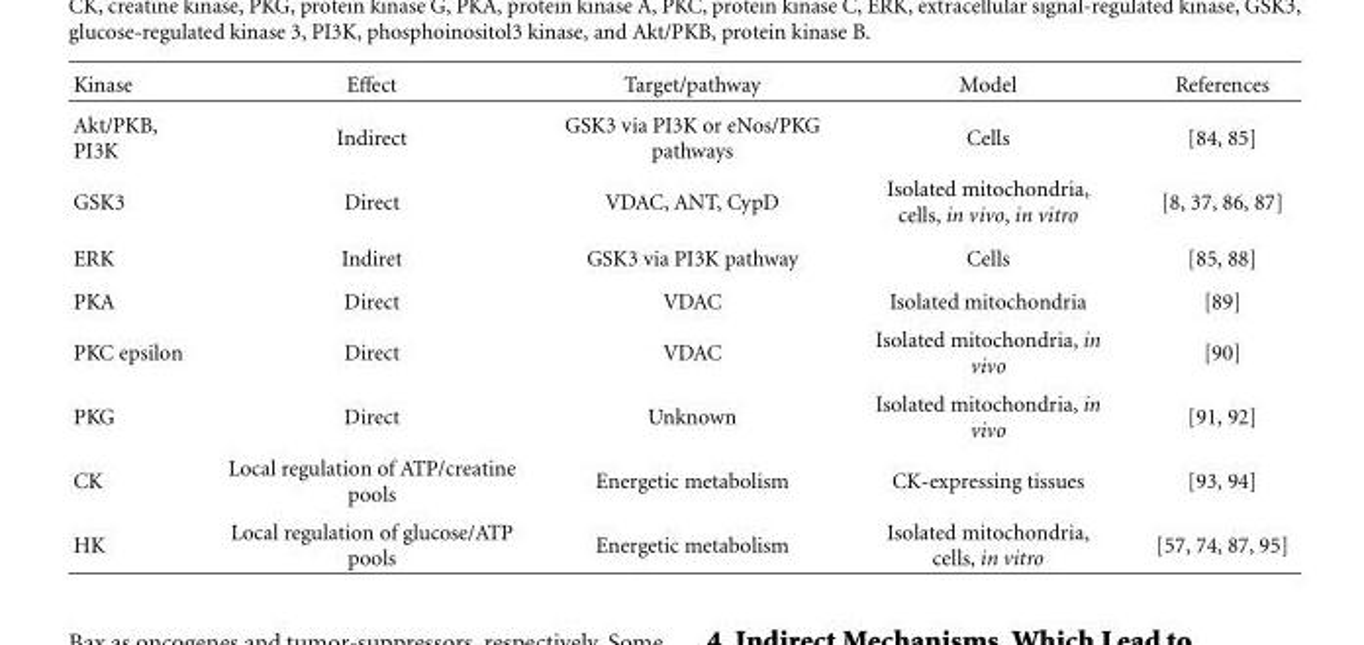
<table><thead><tr><td>Kinase</td><td>Effect</td><td>Target/pathway</td><td>Model</td><td>References</td></tr></thead><tbody><tr><td>Akt/PKB, PI3K</td><td>Indirect</td><td>GSK3 via PI3K or eNos/PKG pathways</td><td>Cells</td><td>[84, 85]</td></tr><tr><td>GSK3</td><td>Direct</td><td>VDAC, ANT, CypD</td><td>Isolated mitochondria, cells, in vivo, in vitro</td><td>[8, 37, 86, 87]</td></tr><tr><td>ERK</td><td>Indiret</td><td>GSK3 via PI3K pathway</td><td>Cells</td><td>[85, 88]</td></tr><tr><td>PKA</td><td>Direct</td><td>VDAC</td><td>Isolated mitochondria</td><td>[89]</td></tr><tr><td>PKC epsilon</td><td>Direct</td><td>VDAC</td><td>Isolated mitochondria, in vivo</td><td>[90]</td></tr><tr><td>PKG</td><td>Direct</td><td>Unknown</td><td>Isolated mitochondria, in vivo</td><td>[91, 92]</td></tr><tr><td>CK</td><td>Local regulation of ATP/creatine pools</td><td>Energetic metabolism</td><td>CK-expressing tissues</td><td>[93, 94]</td></tr><tr><td>HK</td><td>Local regulation of glucose/ATP pools</td><td>Energetic metabolism</td><td>Isolated mitochondria, cells, in vitro</td><td>[57, 74, 87, 95]</td></tr></tbody></table>